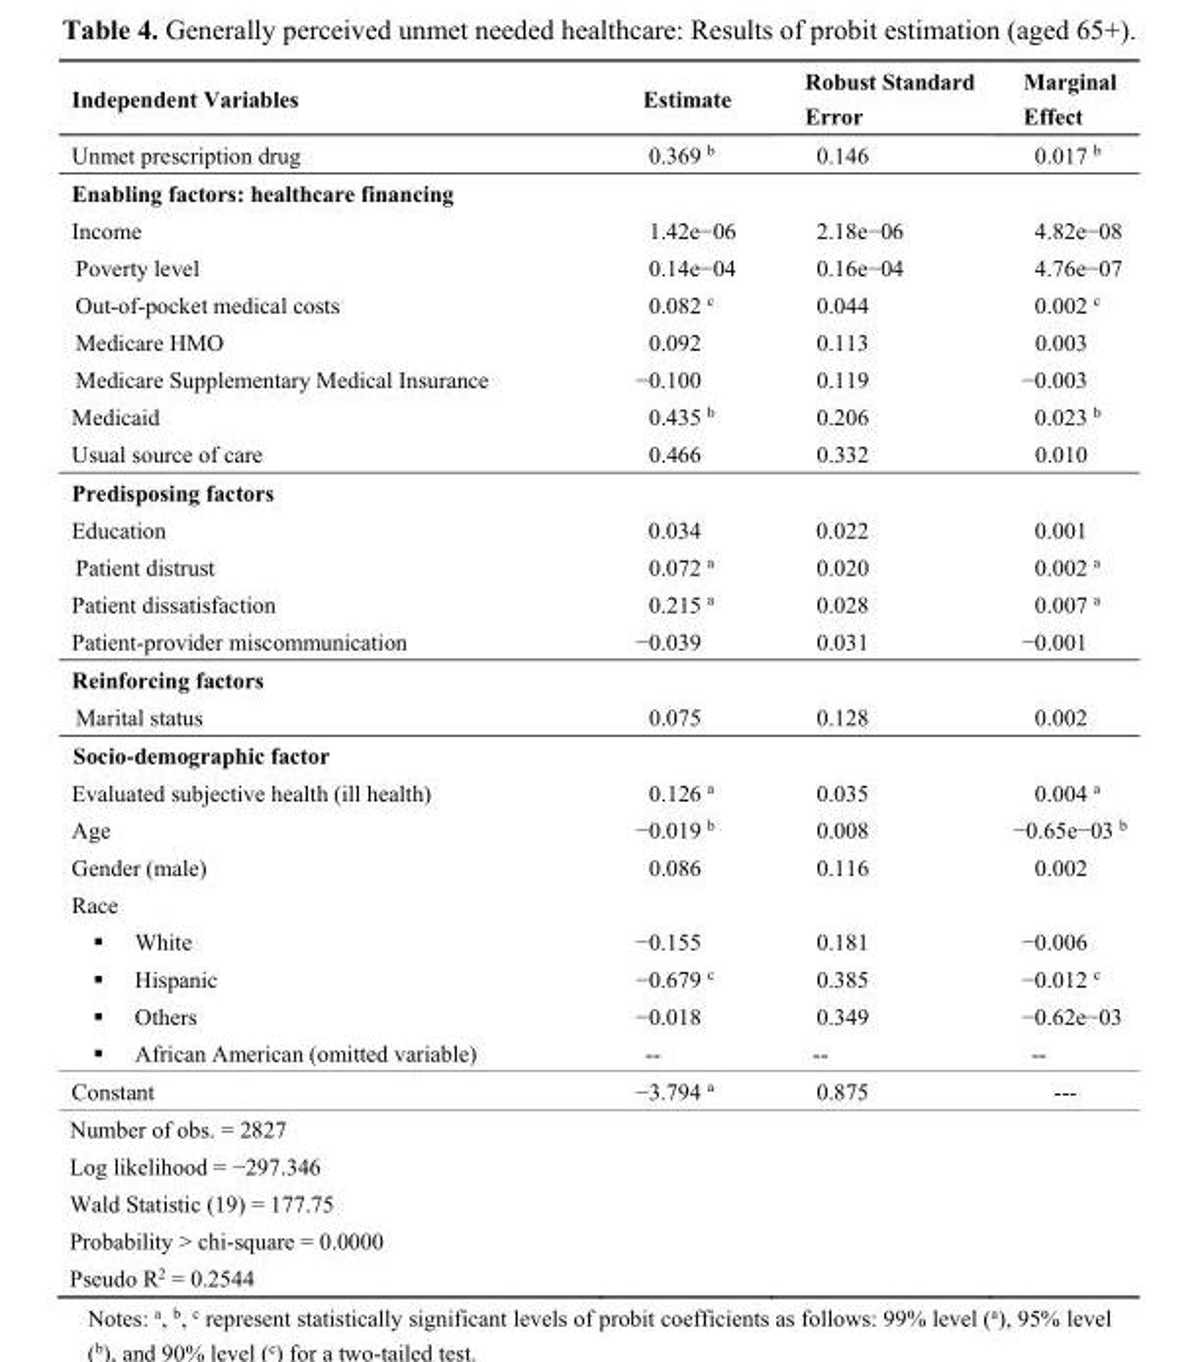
<table><thead><tr><td>Independent Variables</td><td>Estimate</td><td>Robust Standard Error</td><td>Marginal Effect</td></tr></thead><tbody><tr><td>Unmet prescription drug</td><td>0.369 <sup>b</sup></td><td>0.146</td><td>0.017 <sup>b</sup></td></tr><tr><td colspan="4">Enabling factors: healthcare financing</td></tr><tr><td>Income</td><td>1.42e−06</td><td>2.18e−06</td><td>4.82e−08</td></tr><tr><td>Poverty level</td><td>0.14e−04</td><td>0.16e−04</td><td>4.76e−07</td></tr><tr><td>Out-of-pocket medical costs</td><td>0.082 <sup>c</sup></td><td>0.044</td><td>0.002 <sup>c</sup></td></tr><tr><td>Medicare HMO</td><td>0.092</td><td>0.113</td><td>0.003</td></tr><tr><td>Medicare Supplementary Medical Insurance</td><td>−0.100</td><td>0.119</td><td>−0.003</td></tr><tr><td>Medicaid</td><td>0.435 <sup>b</sup></td><td>0.206</td><td>0.023 <sup>b</sup></td></tr><tr><td>Usual source of care</td><td>0.466</td><td>0.332</td><td>0.010</td></tr><tr><td colspan="4">Predisposing factors</td></tr><tr><td>Education</td><td>0.034</td><td>0.022</td><td>0.001</td></tr><tr><td>Patient distrust</td><td>0.072 <sup>a</sup></td><td>0.020</td><td>0.002 <sup>a</sup></td></tr><tr><td>Patient dissatisfaction</td><td>0.215 <sup>a</sup></td><td>0.028</td><td>0.007 <sup>a</sup></td></tr><tr><td>Patient-provider miscommunication</td><td>−0.039</td><td>0.031</td><td>−0.001</td></tr><tr><td colspan="4">Reinforcing factors</td></tr><tr><td>Marital status</td><td>0.075</td><td>0.128</td><td>0.002</td></tr><tr><td colspan="4">Socio-demographic factor</td></tr><tr><td>Evaluated subjective health (ill health)</td><td>0.126 <sup>a</sup></td><td>0.035</td><td>0.004 <sup>a</sup></td></tr><tr><td>Age</td><td>−0.019 <sup>b</sup></td><td>0.008</td><td>−0.65e−03 <sup>b</sup></td></tr><tr><td>Gender (male)</td><td>0.086</td><td>0.116</td><td>0.002</td></tr><tr><td colspan="4">Race</td></tr><tr><td>▪ White</td><td>−0.155</td><td>0.181</td><td>−0.006</td></tr><tr><td>▪ Hispanic</td><td>−0.679 <sup>c</sup></td><td>0.385</td><td>−0.012 <sup>c</sup></td></tr><tr><td>▪ Others</td><td>−0.018</td><td>0.349</td><td>−0.62e−03</td></tr><tr><td>▪ African American (omitted variable)</td><td>--</td><td>--</td><td>--</td></tr><tr><td>Constant</td><td>−3.794 <sup>a</sup></td><td>0.875</td><td>---</td></tr><tr><td colspan="4">Number of obs. = 2827</td></tr><tr><td colspan="4">Log likelihood = −297.346</td></tr><tr><td colspan="4">Wald Statistic (19) = 177.75</td></tr><tr><td colspan="4">Probability &gt; chi-square = 0.0000</td></tr><tr><td>Pseudo R<sup>2</sup> = 0.2544</td><td></td><td></td><td></td></tr></tbody></table>